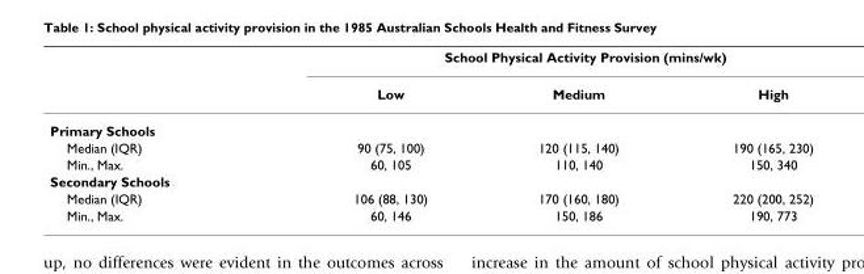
<table><thead><tr><td rowspan="2"></td><td colspan="3">School Physical Activity Provision (mins/wk)</td></tr><tr><td>Low</td><td>Medium</td><td>High</td></tr></thead><tbody><tr><td colspan="4">Primary Schools</td></tr><tr><td>Median (IQR)</td><td>90 (75, 100)</td><td>120 (115, 140)</td><td>190 (165, 230)</td></tr><tr><td>Min., Max.</td><td>60, 105</td><td>110, 140</td><td>150, 340</td></tr><tr><td colspan="4">Secondary Schools</td></tr><tr><td>Median (IQR)</td><td>106 (88, 130)</td><td>170 (160, 180)</td><td>220 (200, 252)</td></tr><tr><td>Min., Max.</td><td>60, 146</td><td>150, 186</td><td>190, 773</td></tr></tbody></table>